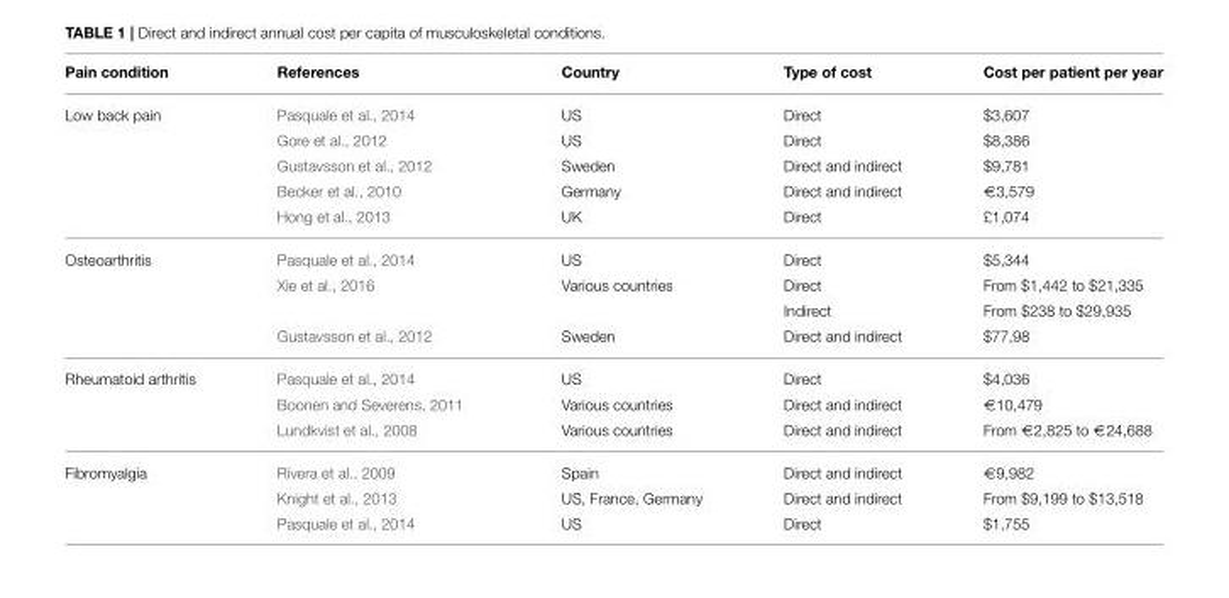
<table><thead><tr><td>Pain condition</td><td>References</td><td>Country</td><td>Type of cost</td><td>Cost per patient per year</td></tr></thead><tbody><tr><td rowspan="5">Low back pain</td><td>Pasquale et al., 2014</td><td>US</td><td>Direct</td><td>$3,607</td></tr><tr><td>Gore et al., 2012</td><td>US</td><td>Direct</td><td>$8,386</td></tr><tr><td>Gustavsson et al., 2012</td><td>Sweden</td><td>Direct and indirect</td><td>$9,781</td></tr><tr><td>Becker et al., 2010</td><td>Germany</td><td>Direct and indirect</td><td>€3,579</td></tr><tr><td>Hong et al., 2013</td><td>UK</td><td>Direct</td><td>£1,074</td></tr><tr><td rowspan="4">Osteoarthritis</td><td>Pasquale et al., 2014</td><td>US</td><td>Direct</td><td>$5,344</td></tr><tr><td>Xie et al., 2016</td><td>Various countries</td><td>Direct</td><td>From $1,442 to $21,335</td></tr><tr><td></td><td></td><td>Indirect</td><td>From $238 to $29,935</td></tr><tr><td>Gustavsson et al., 2012</td><td>Sweden</td><td>Direct and indirect</td><td>$77,98</td></tr><tr><td rowspan="3">Rheumatoid arthritis</td><td>Pasquale et al., 2014</td><td>US</td><td>Direct</td><td>$4,036</td></tr><tr><td>Boonen and Severens, 2011</td><td>Various countries</td><td>Direct and indirect</td><td>€10,479</td></tr><tr><td>Lundkvist et al., 2008</td><td>Various countries</td><td>Direct and indirect</td><td>From €2,825 to €24,688</td></tr><tr><td rowspan="3">Fibromyalgia</td><td>Rivera et al., 2009</td><td>Spain</td><td>Direct and indirect</td><td>€9,982</td></tr><tr><td>Knight et al., 2013</td><td>US, France, Germany</td><td>Direct and indirect</td><td>From $9,199 to $13,518</td></tr><tr><td>Pasquale et al., 2014</td><td>US</td><td>Direct</td><td>$1,755</td></tr></tbody></table>